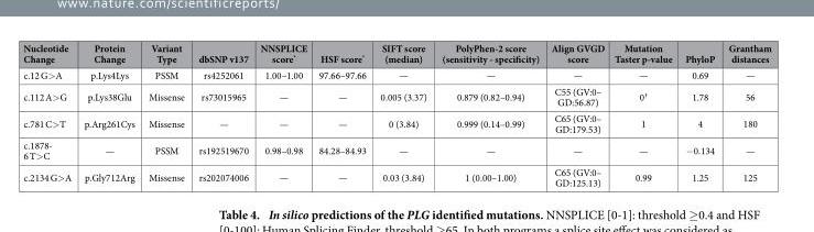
<table><thead><tr><td>Nucleotide Change</td><td>Protein Change</td><td>Variant Type</td><td>dbSNP v137</td><td>NNSPLICE score*</td><td>HSF score*</td><td>SIFT score (median)</td><td>PolyPhen-2 score (sensitivity - specificity)</td><td>Align GVGD score</td><td>Mutation Taster p-value</td><td>PhyloP</td><td>Grantham distances</td></tr></thead><tbody><tr><td>c.12 G&gt; A</td><td>p.Lys4Lys</td><td>PSSM</td><td>rs4252061</td><td>1.00–1.00</td><td>97.66–97.66</td><td>—</td><td>—</td><td>—</td><td>—</td><td>0.69</td><td>—</td></tr><tr><td>c.112 A&gt; G</td><td>p.Lys38Glu</td><td>Missense</td><td>rs73015965</td><td>—</td><td>—</td><td>0.005 (3.37)</td><td>0.879 (0.82–0.94)</td><td>C55 (GV:0– GD:56.87)</td><td>0†</td><td>1.78</td><td>56</td></tr><tr><td>c.781 C&gt; T</td><td>p.Arg261Cys</td><td>Missense</td><td>—</td><td>—</td><td>—</td><td>0 (3.84)</td><td>0.999 (0.14–0.99)</td><td>C65 (GV:0– GD:179.53)</td><td>1</td><td>4</td><td>180</td></tr><tr><td>c.1878- 6 T&gt; C</td><td>—</td><td>PSSM</td><td>rs192519670</td><td>0.98–0.98</td><td>84.28–84.93</td><td>—</td><td>—</td><td>—</td><td>—</td><td>− 0.134</td><td>—</td></tr><tr><td>c.2134 G&gt; A</td><td>p.Gly712Arg</td><td>Missense</td><td>rs202074006</td><td>—</td><td>—</td><td>0.03 (3.84)</td><td>1 (0.00–1.00)</td><td>C65 (GV:0– GD:125.13)</td><td>0.99</td><td>1.25</td><td>125</td></tr></tbody></table>